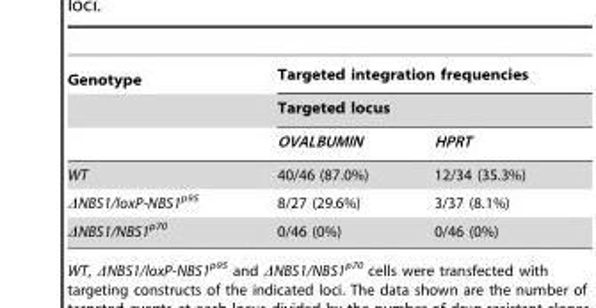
<table><thead><tr><td rowspan="3">Genotype</td><td rowspan="2" colspan="2">Targeted integration frequencies Targeted locus</td></tr><tr></tr><tr><td>OVALBUMIN</td><td>HPRT</td></tr></thead><tbody><tr><td>WT</td><td>40/46 (87.0%)</td><td>12/34 (35.3%)</td></tr><tr><td>ΔNBS1/loxP-NBS1<sup>p95</sup></td><td>8/27 (29.6%)</td><td>3/37 (8.1%)</td></tr><tr><td>ΔNBS1/NBS1<sup>p70</sup></td><td>0/46 (0%)</td><td>0/46 (0%)</td></tr></tbody></table>